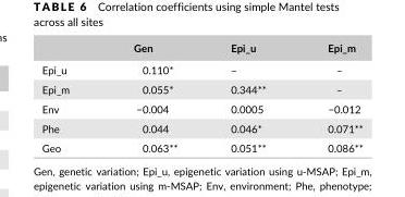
<table><thead><tr><td></td><td>Gen</td><td>Epi_u</td><td>Epi_m</td></tr></thead><tbody><tr><td>Epi_u</td><td>0.110*</td><td>–</td><td>–</td></tr><tr><td>Epi_m</td><td>0.055*</td><td>0.344**</td><td>–</td></tr><tr><td>Env</td><td>−0.004</td><td>0.0005</td><td>−0.012</td></tr><tr><td>Phe</td><td>0.044</td><td>0.046*</td><td>0.071**</td></tr><tr><td>Geo</td><td>0.063**</td><td>0.051**</td><td>0.086**</td></tr></tbody></table>